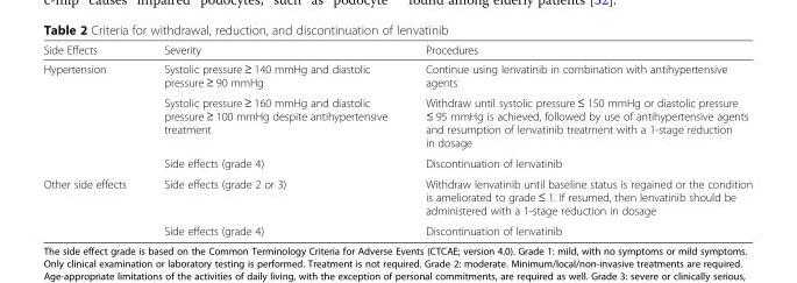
<table><thead><tr><td>Side Effects</td><td>Severity</td><td>Procedures</td></tr></thead><tbody><tr><td rowspan="3">Hypertension</td><td>Systolic pressure ≥ 140 mmHg and diastolic pressure ≥ 90 mmHg</td><td>Continue using lenvatinib in combination with antihypertensive agents</td></tr><tr><td>Systolic pressure ≥ 160 mmHg and diastolic pressure ≥ 100 mmHg despite antihypertensive treatment</td><td>Withdraw until systolic pressure ≤ 150 mmHg or diastolic pressure ≤ 95 mmHg is achieved, followed by use of antihypertensive agents and resumption of lenvatinib treatment with a 1-stage reduction in dosage</td></tr><tr><td>Side effects (grade 4)</td><td>Discontinuation of lenvatinib</td></tr><tr><td rowspan="2">Other side effects</td><td>Side effects (grade 2 or 3)</td><td>Withdraw lenvatinib until baseline status is regained or the condition is ameliorated to grade ≤ 1. If resumed, then lenvatinib should be administered with a 1-stage reduction in dosage</td></tr><tr><td>Side effects (grade 4)</td><td>Discontinuation of lenvatinib</td></tr></tbody></table>